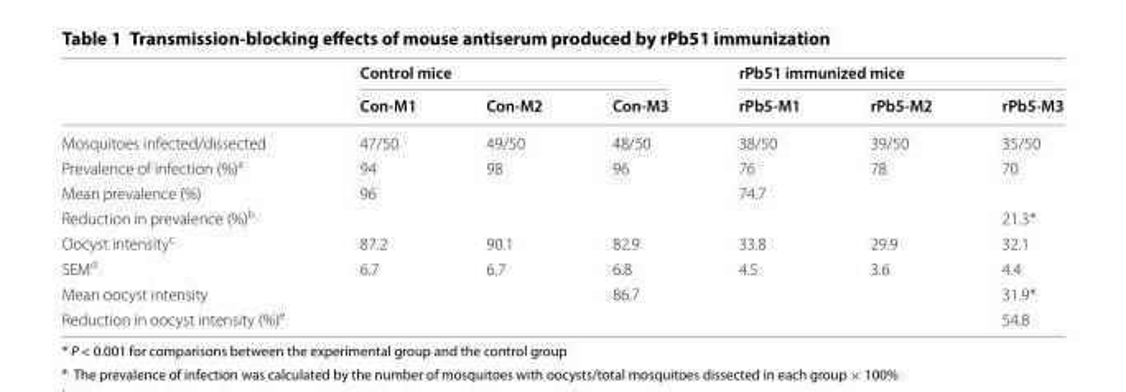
<table><thead><tr><td rowspan="2"></td><td colspan="3">Control mice</td><td colspan="3">rPb51 immunized mice</td></tr><tr><td>Con-M1</td><td>Con-M2</td><td>Con-M3</td><td>rPb5-M1</td><td>rPb5-M2</td><td>rPb5-M3</td></tr></thead><tbody><tr><td>Mosquitoes infected/dissected</td><td>47/50</td><td>49/50</td><td>48/50</td><td>38/50</td><td>39/50</td><td>35/50</td></tr><tr><td>Prevalence of infection (%)<sup>a</sup></td><td>94</td><td>98</td><td>96</td><td>76</td><td>78</td><td>70</td></tr><tr><td>Mean prevalence (%)</td><td colspan="3">96</td><td colspan="3">74.7</td></tr><tr><td>Reduction in prevalence (%)<sup>b</sup></td><td></td><td></td><td></td><td></td><td></td><td>21.3*</td></tr><tr><td>Oocyst intensity<sup>c</sup></td><td>87.2</td><td>90.1</td><td>82.9</td><td>33.8</td><td>29.9</td><td>32.1</td></tr><tr><td>SEM<sup>d</sup></td><td>6.7</td><td>6.7</td><td>6.8</td><td>4.5</td><td>3.6</td><td>4.4</td></tr><tr><td>Mean oocyst intensity</td><td></td><td></td><td>86.7</td><td></td><td></td><td>31.9*</td></tr><tr><td>Reduction in oocyst intensity (%)<sup>e</sup></td><td></td><td></td><td></td><td></td><td></td><td>54.8</td></tr></tbody></table>